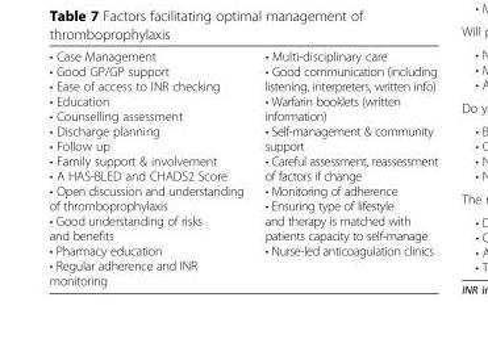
<table><tbody><tr><td>• Case Management • Good GP/GP support • Ease of access to INR checking • Education • Counselling assessment • Discharge planning • Follow up • Family support &amp; involvement • A HAS-BLED and CHADS2 Score • Open discussion and understanding of thromboprophylaxis • Good understanding of risks and benefits • Pharmacy education • Regular adherence and INR monitoring</td><td>• Multi-disciplinary care • Good communication (including listening, interpreters, written info) • Warfarin booklets (written information) • Self-management &amp; community support • Careful assessment, reassessment of factors if change • Monitoring of adherence • Ensuring type of lifestyle and therapy is matched with patients capacity to self-manage • Nurse-led anticoagulation clinics</td></tr></tbody></table>